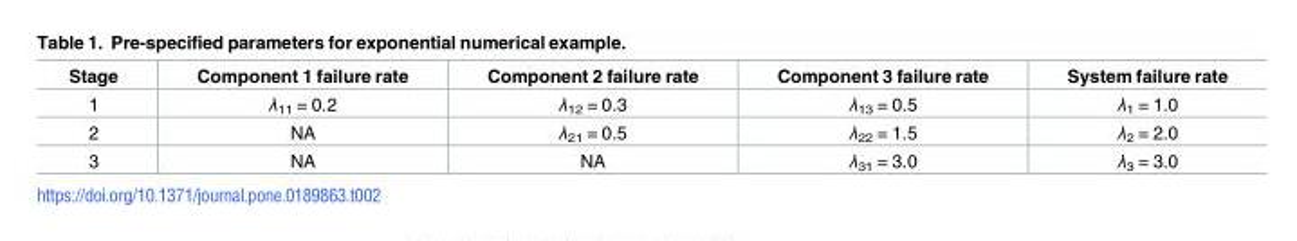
<table><thead><tr><td>Stage</td><td>Component 1 failure rate</td><td>Component 2 failure rate</td><td>Component 3 failure rate</td><td>System failure rate</td></tr></thead><tbody><tr><td>1</td><td>λ<sub>11</sub> = 0.2</td><td>λ<sub>12</sub> = 0.3</td><td>λ<sub>13</sub> = 0.5</td><td>λ<sub>1</sub> = 1.0</td></tr><tr><td>2</td><td>NA</td><td>λ<sub>21</sub> = 0.5</td><td>λ<sub>22</sub> = 1.5</td><td>λ<sub>2</sub> = 2.0</td></tr><tr><td>3</td><td>NA</td><td>NA</td><td>λ<sub>31</sub> = 3.0</td><td>λ<sub>3</sub> = 3.0</td></tr></tbody></table>